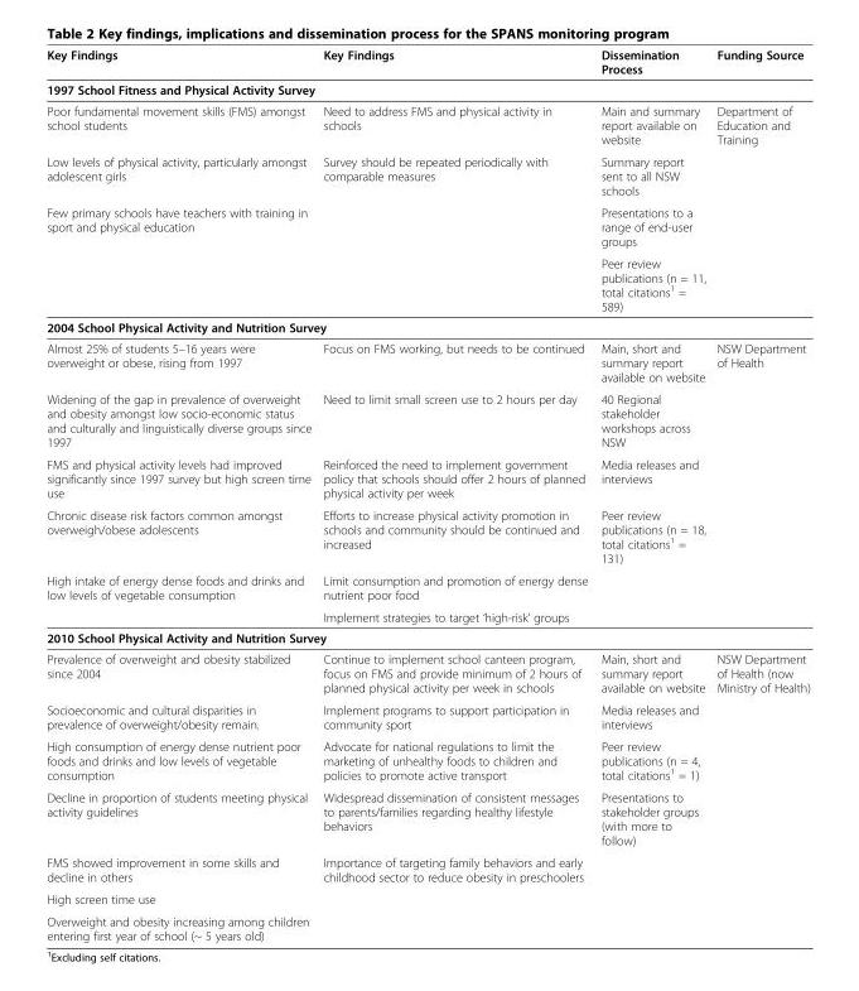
<table><thead><tr><td>Key Findings</td><td>Key Findings</td><td>Dissemination Process</td><td>Funding Source</td></tr></thead><tbody><tr><td colspan="4">1997 School Fitness and Physical Activity Survey</td></tr><tr><td>Poor fundamental movement skills (FMS) amongst school students</td><td>Need to address FMS and physical activity in schools</td><td>Main and summary report available on website</td><td>Department of Education and Training</td></tr><tr><td>Low levels of physical activity, particularly amongst adolescent girls</td><td>Survey should be repeated periodically with comparable measures</td><td>Summary report sent to all NSW schools</td><td></td></tr><tr><td rowspan="2">Few primary schools have teachers with training in sport and physical education</td><td></td><td>Presentations to a range of end-user groups</td><td></td></tr><tr><td></td><td>Peer review publications (n = 11, total citations<sup>1</sup> = 589)</td><td></td></tr><tr><td colspan="4">2004 School Physical Activity and Nutrition Survey</td></tr><tr><td>Almost 25% of students 5–16 years were overweight or obese, rising from 1997</td><td>Focus on FMS working, but needs to be continued</td><td>Main, short and summary report available on website</td><td>NSW Department of Health</td></tr><tr><td>Widening of the gap in prevalence of overweight and obesity amongst low socio-economic status and culturally and linguistically diverse groups since 1997</td><td>Need to limit small screen use to 2 hours per day</td><td>40 Regional stakeholder workshops across NSW</td><td></td></tr><tr><td>FMS and physical activity levels had improved significantly since 1997 survey but high screen time use</td><td>Reinforced the need to implement government policy that schools should offer 2 hours of planned physical activity per week</td><td>Media releases and interviews</td><td></td></tr><tr><td>Chronic disease risk factors common amongst overweigh/obese adolescents</td><td>Efforts to increase physical activity promotion in schools and community should be continued and increased</td><td>Peer review publications (n = 18, total citations<sup>1</sup> = 131)</td><td></td></tr><tr><td rowspan="2">High intake of energy dense foods and drinks and low levels of vegetable consumption</td><td>Limit consumption and promotion of energy dense nutrient poor food</td><td></td><td></td></tr><tr><td>Implement strategies to target ‘high-risk’ groups</td><td></td><td></td></tr><tr><td colspan="4">2010 School Physical Activity and Nutrition Survey</td></tr><tr><td>Prevalence of overweight and obesity stabilized since 2004</td><td>Continue to implement school canteen program, focus on FMS and provide minimum of 2 hours of planned physical activity per week in schools</td><td>Main, short and summary report available on website</td><td>NSW Department of Health (now Ministry of Health)</td></tr><tr><td>Socioeconomic and cultural disparities in prevalence of overweight/obesity remain.</td><td>Implement programs to support participation in community sport</td><td>Media releases and interviews</td><td></td></tr><tr><td>High consumption of energy dense nutrient poor foods and drinks and low levels of vegetable consumption</td><td>Advocate for national regulations to limit the marketing of unhealthy foods to children and policies to promote active transport</td><td>Peer review publications (n = 4, total citations<sup>1</sup> = 1)</td><td></td></tr><tr><td>Decline in proportion of students meeting physical activity guidelines</td><td>Widespread dissemination of consistent messages to parents/families regarding healthy lifestyle behaviors</td><td>Presentations to stakeholder groups (with more to follow)</td><td></td></tr><tr><td>FMS showed improvement in some skills and decline in others</td><td>Importance of targeting family behaviors and early childhood sector to reduce obesity in preschoolers</td><td></td><td></td></tr><tr><td colspan="4">High screen time use</td></tr><tr><td>Overweight and obesity increasing among children entering first year of school (~ 5 years old)</td><td></td><td></td><td></td></tr></tbody></table>